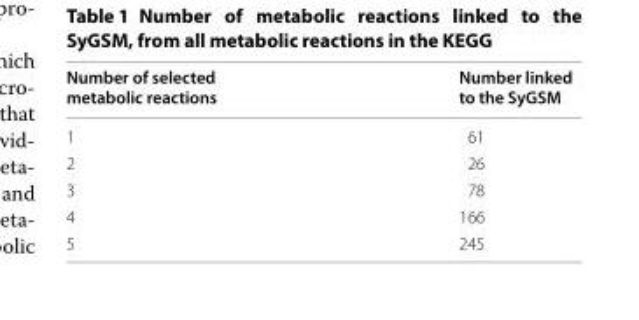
<table><thead><tr><td>Number of selected metabolic reactions</td><td>Number linked to the SyGSM</td></tr></thead><tbody><tr><td>1</td><td>61</td></tr><tr><td>2</td><td>26</td></tr><tr><td>3</td><td>78</td></tr><tr><td>4</td><td>166</td></tr><tr><td>5</td><td>245</td></tr></tbody></table>